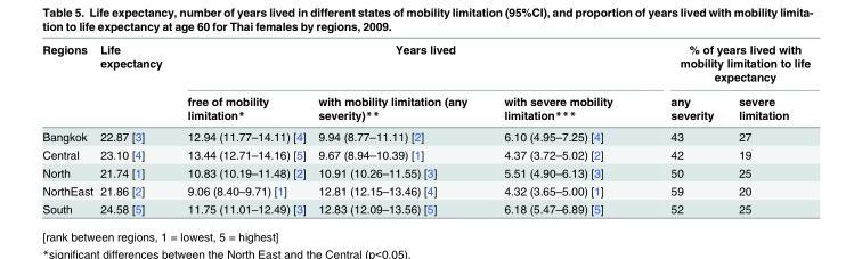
<table><thead><tr><td rowspan="2">Regions</td><td rowspan="2">Life expectancy</td><td colspan="3">Years lived</td><td colspan="2">% of years lived with mobility limitation to life expectancy</td></tr><tr><td>free of mobility limitation*</td><td>with mobility limitation (any severity)**</td><td>with severe mobility limitation***</td><td>any severity</td><td>severe limitation</td></tr></thead><tbody><tr><td>Bangkok</td><td>22.87 [3]</td><td>12.94 (11.77–14.11) [4]</td><td>9.94 (8.77–11.11) [2]</td><td>6.10 (4.95–7.25) [4]</td><td>43</td><td>27</td></tr><tr><td>Central</td><td>23.10 [4]</td><td>13.44 (12.71–14.16) [5]</td><td>9.67 (8.94–10.39) [1]</td><td>4.37 (3.72–5.02) [2]</td><td>42</td><td>19</td></tr><tr><td>North</td><td>21.74 [1]</td><td>10.83 (10.19–11.48) [2]</td><td>10.91 (10.26–11.55) [3]</td><td>5.51 (4.90–6.13) [3]</td><td>50</td><td>25</td></tr><tr><td>NorthEast</td><td>21.86 [2]</td><td>9.06 (8.40–9.71) [1]</td><td>12.81 (12.15–13.46) [4]</td><td>4.32 (3.65–5.00) [1]</td><td>59</td><td>20</td></tr><tr><td>South</td><td>24.58 [5]</td><td>11.75 (11.01–12.49) [3]</td><td>12.83 (12.09–13.56) [5]</td><td>6.18 (5.47–6.89) [5]</td><td>52</td><td>25</td></tr></tbody></table>